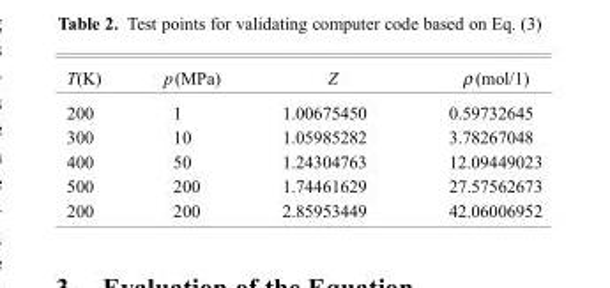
<table><thead><tr><td>T(K)</td><td>p(MPa)</td><td>Z</td><td>ρ (mol/1)</td></tr></thead><tbody><tr><td>200</td><td>1</td><td>1.00675450</td><td>0.59732645</td></tr><tr><td>300</td><td>10</td><td>1.05985282</td><td>3.78267048</td></tr><tr><td>400</td><td>50</td><td>1.24304763</td><td>12.09449023</td></tr><tr><td>500</td><td>200</td><td>1.74461629</td><td>27.57562673</td></tr><tr><td>200</td><td>200</td><td>2.85953449</td><td>42.06006952</td></tr></tbody></table>